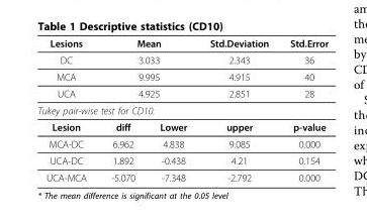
<table><thead><tr><td>Lesions</td><td colspan="2">Mean</td><td>Std.Deviation</td><td>Std.Error</td></tr></thead><tbody><tr><td>DC</td><td colspan="2">3.033</td><td>2.343</td><td>36</td></tr><tr><td>MCA</td><td colspan="2">9.995</td><td>4.915</td><td>40</td></tr><tr><td>UCA</td><td colspan="2">4.925</td><td>2.851</td><td>28</td></tr><tr><td colspan="5">Tukey pair-wise test for CD10.</td></tr><tr><td>Lesion</td><td>diff</td><td>Lower</td><td>upper</td><td>p-value</td></tr><tr><td>MCA-DC</td><td>6.962</td><td>4.838</td><td>9.085</td><td>0.000</td></tr><tr><td>UCA-DC</td><td>1.892</td><td>-0.438</td><td>4.21</td><td>0.154</td></tr><tr><td>UCA-MCA</td><td>-5.070</td><td>-7.348</td><td>-2.792</td><td>0.000</td></tr></tbody></table>